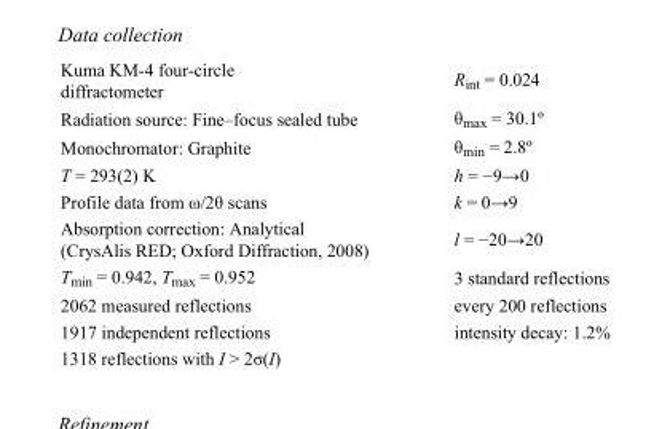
<table><tbody><tr><td>Kuma KM-4 four-circle diffractometer</td><td>R<sub>int</sub> = 0.024</td></tr><tr><td>Radiation source: Fine–focus sealed tube</td><td>θ<sub>max</sub> = 30.1º</td></tr><tr><td>Monochromator: Graphite</td><td>θ<sub>min</sub> = 2.8º</td></tr><tr><td>T = 293(2) K</td><td>h = −9→0</td></tr><tr><td>Profile data from ω/2θ scans</td><td>k = 0→9</td></tr><tr><td>Absorption correction: Analytical (CrysAlis RED; Oxford Diffraction, 2008)</td><td>l = −20→20</td></tr><tr><td>T<sub>min</sub> = 0.942, T<sub>max</sub> = 0.952</td><td>3 standard reflections</td></tr><tr><td>2062 measured reflections</td><td>every 200 reflections</td></tr><tr><td>1917 independent reflections</td><td>intensity decay: 1.2%</td></tr><tr><td>1318 reflections with I &gt; 2σ(I)</td><td></td></tr></tbody></table>